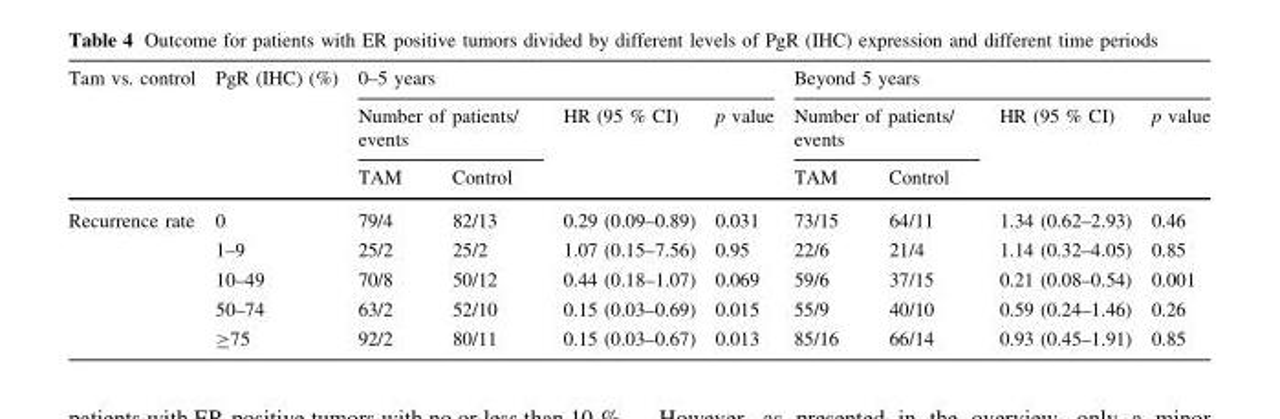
<table><thead><tr><td rowspan="3">Tam vs. control</td><td rowspan="3">PgR (IHC) (%)</td><td colspan="4">0–5 years</td><td colspan="4">Beyond 5 years</td></tr><tr><td colspan="2">Number of patients/ events</td><td rowspan="2">HR (95 % CI)</td><td rowspan="2">p value</td><td colspan="2">Number of patients/ events</td><td rowspan="2">HR (95 % CI)</td><td rowspan="2">p value</td></tr><tr><td>TAM</td><td>Control</td><td>TAM</td><td>Control</td></tr></thead><tbody><tr><td rowspan="5">Recurrence rate</td><td>0</td><td>79/4</td><td>82/13</td><td>0.29 (0.09–0.89)</td><td>0.031</td><td>73/15</td><td>64/11</td><td>1.34 (0.62–2.93)</td><td>0.46</td></tr><tr><td>1–9</td><td>25/2</td><td>25/2</td><td>1.07 (0.15–7.56)</td><td>0.95</td><td>22/6</td><td>21/4</td><td>1.14 (0.32–4.05)</td><td>0.85</td></tr><tr><td>10–49</td><td>70/8</td><td>50/12</td><td>0.44 (0.18–1.07)</td><td>0.069</td><td>59/6</td><td>37/15</td><td>0.21 (0.08–0.54)</td><td>0.001</td></tr><tr><td>50–74</td><td>63/2</td><td>52/10</td><td>0.15 (0.03–0.69)</td><td>0.015</td><td>55/9</td><td>40/10</td><td>0.59 (0.24–1.46)</td><td>0.26</td></tr><tr><td>≥75</td><td>92/2</td><td>80/11</td><td>0.15 (0.03–0.67)</td><td>0.013</td><td>85/16</td><td>66/14</td><td>0.93 (0.45–1.91)</td><td>0.85</td></tr></tbody></table>